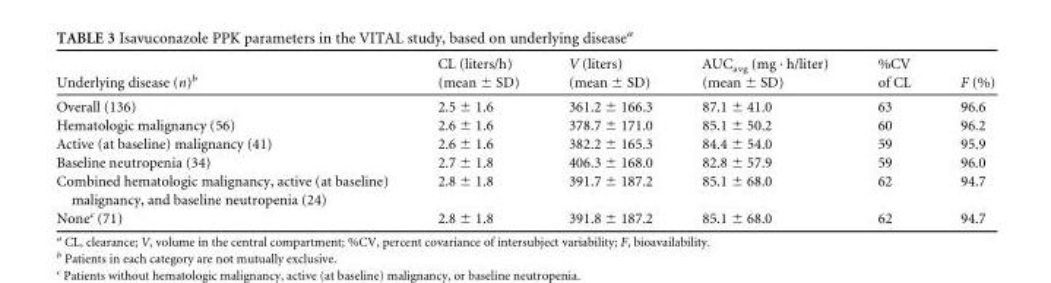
<table><thead><tr><td>Underlying disease (n)<sup>b</sup></td><td>CL (liters/h) (mean ± SD)</td><td>V (liters) (mean ± SD)</td><td>AUC<sub>avg</sub> (mg · h/liter) (mean ± SD)</td><td>%CV of CL</td><td>F (%)</td></tr></thead><tbody><tr><td>Overall (136)</td><td>2.5 ± 1.6</td><td>361.2 ± 166.3</td><td>87.1 ± 41.0</td><td>63</td><td>96.6</td></tr><tr><td>Hematologic malignancy (56)</td><td>2.6 ± 1.6</td><td>378.7 ± 171.0</td><td>85.1 ± 50.2</td><td>60</td><td>96.2</td></tr><tr><td>Active (at baseline) malignancy (41)</td><td>2.6 ± 1.6</td><td>382.2 ± 165.3</td><td>84.4 ± 54.0</td><td>59</td><td>95.9</td></tr><tr><td>Baseline neutropenia (34)</td><td>2.7 ± 1.8</td><td>406.3 ± 168.0</td><td>82.8 ± 57.9</td><td>59</td><td>96.0</td></tr><tr><td>Combined hematologic malignancy, active (at baseline) malignancy, and baseline neutropenia (24)</td><td>2.8 ± 1.8</td><td>391.7 ± 187.2</td><td>85.1 ± 68.0</td><td>62</td><td>94.7</td></tr><tr><td>None<sup>c</sup> (71)</td><td>2.8 ± 1.8</td><td>391.8 ± 187.2</td><td>85.1 ± 68.0</td><td>62</td><td>94.7</td></tr></tbody></table>